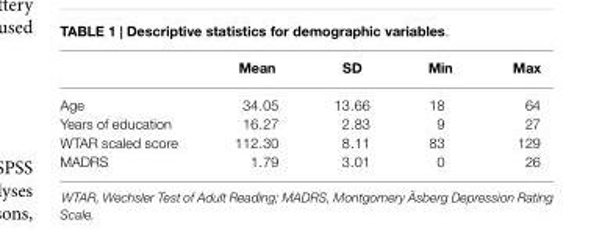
<table><thead><tr><td></td><td>Mean</td><td>SD</td><td>Min</td><td>Max</td></tr></thead><tbody><tr><td>Age</td><td>34.05</td><td>13.66</td><td>18</td><td>64</td></tr><tr><td>Years of education</td><td>16.27</td><td>2.83</td><td>9</td><td>27</td></tr><tr><td>WTAR scaled score</td><td>112.30</td><td>8.11</td><td>83</td><td>129</td></tr><tr><td>MADRS</td><td>1.79</td><td>3.01</td><td>0</td><td>26</td></tr></tbody></table>